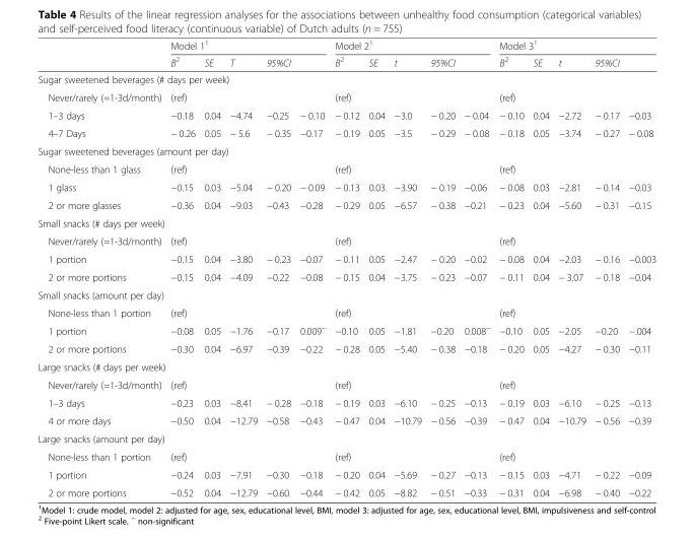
<table><thead><tr><td rowspan="2"></td><td colspan="5">Model 1<sup>1</sup></td><td colspan="5">Model 2<sup>1</sup></td><td colspan="5">Model 3<sup>1</sup></td></tr><tr><td>B<sup>2</sup></td><td>SE</td><td>T</td><td colspan="2">95%CI</td><td>B<sup>2</sup></td><td>SE</td><td>t</td><td colspan="2">95%CI</td><td>B<sup>2</sup></td><td>SE</td><td>t</td><td colspan="2">95%CI</td></tr><tr><td colspan="16">Sugar sweetened beverages (# days per week)</td></tr><tr><td rowspan="2">Never/rarely (=1-3d/month) 1–3 days</td><td rowspan="2">(ref) −0.18</td><td rowspan="2">0.04</td><td rowspan="2">−4.74</td><td colspan="2"></td><td rowspan="2">(ref) − 0.12</td><td rowspan="2">0.04</td><td rowspan="2">−3.0</td><td colspan="2"></td><td rowspan="2">(ref) − 0.10</td><td rowspan="2">0.04</td><td rowspan="2">−2.72</td><td colspan="2"></td></tr><tr><td>−0.25</td><td>− 0.10</td><td>− 0.20</td><td>− 0.04</td><td>− 0.17</td><td>−0.03</td></tr></thead><tbody><tr><td>4–7 Days</td><td>− 0.26</td><td>0.05</td><td>− 5.6</td><td>− 0.35</td><td>−0.17</td><td>− 0.19</td><td>0.05</td><td>−3.5</td><td>− 0.29</td><td>− 0.08</td><td>− 0.18</td><td>0.05</td><td>−3.74</td><td>− 0.27</td><td>− 0.08</td></tr><tr><td colspan="16">Sugar sweetened beverages (amount per day)</td></tr><tr><td>None-less than 1 glass</td><td>(ref)</td><td></td><td></td><td></td><td></td><td>(ref)</td><td></td><td></td><td></td><td></td><td>(ref)</td><td></td><td></td><td></td><td></td></tr><tr><td>1 glass</td><td>−0.15</td><td>0.03</td><td>−5.04</td><td>− 0.20</td><td>− 0.09</td><td>− 0.13</td><td>0.03</td><td>−3.90</td><td>− 0.19</td><td>−0.06</td><td>− 0.08</td><td>0.03</td><td>−2.81</td><td>− 0.14</td><td>−0.03</td></tr><tr><td>2 or more glasses</td><td>−0.36</td><td>0.04</td><td>−9.03</td><td>−0.43</td><td>−0.28</td><td>− 0.29</td><td>0.05</td><td>−6.57</td><td>− 0.38</td><td>−0.21</td><td>− 0.23</td><td>0.04</td><td>−5.60</td><td>− 0.31</td><td>−0.15</td></tr><tr><td colspan="16">Small snacks (# days per week)</td></tr><tr><td>Never/rarely (=1-3d/month)</td><td>(ref)</td><td></td><td></td><td></td><td></td><td>(ref)</td><td></td><td></td><td></td><td></td><td>(ref)</td><td></td><td></td><td></td><td></td></tr><tr><td>1 portion</td><td>−0.15</td><td>0.04</td><td>−3.80</td><td>− 0.23</td><td>−0.07</td><td>− 0.11</td><td>0.05</td><td>−2.47</td><td>− 0.20</td><td>−0.02</td><td>− 0.08</td><td>0.04</td><td>−2.03</td><td>− 0.16</td><td>−0.003</td></tr><tr><td>2 or more portions</td><td>−0.15</td><td>0.04</td><td>−4.09</td><td>−0.22</td><td>−0.08</td><td>− 0.15</td><td>0.04</td><td>−3.75</td><td>− 0.23</td><td>−0.07</td><td>− 0.11</td><td>0.04</td><td>− 3.07</td><td>− 0.18</td><td>−0.04</td></tr><tr><td colspan="16">Small snacks (amount per day)</td></tr><tr><td>None-less than 1 portion</td><td>(ref)</td><td></td><td></td><td></td><td></td><td>(ref)</td><td></td><td></td><td></td><td></td><td>(ref)</td><td></td><td></td><td></td><td></td></tr><tr><td>1 portion</td><td>−0.08</td><td>0.05</td><td>−1.76</td><td>−0.17</td><td>0.009<sup>~</sup></td><td>−0.10</td><td>0.05</td><td>−1.81</td><td>−0.20</td><td>0.008<sup>~</sup></td><td>−0.10</td><td>0.05</td><td>−2.05</td><td>−0.20</td><td>−.004</td></tr><tr><td>2 or more portions</td><td>−0.30</td><td>0.04</td><td>−6.97</td><td>−0.39</td><td>−0.22</td><td>− 0.28</td><td>0.05</td><td>−5.40</td><td>− 0.38</td><td>−0.18</td><td>− 0.20</td><td>0.05</td><td>−4.27</td><td>− 0.30</td><td>−0.11</td></tr><tr><td colspan="16">Large snacks (# days per week)</td></tr><tr><td>Never/rarely (=1-3d/month)</td><td>(ref)</td><td></td><td></td><td></td><td></td><td>(ref)</td><td></td><td></td><td></td><td></td><td>(ref)</td><td></td><td></td><td></td><td></td></tr><tr><td>1–3 days</td><td>−0.23</td><td>0.03</td><td>−8.41</td><td>− 0.28</td><td>−0.18</td><td>− 0.19</td><td>0.03</td><td>−6.10</td><td>− 0.25</td><td>−0.13</td><td>− 0.19</td><td>0.03</td><td>−6.10</td><td>− 0.25</td><td>−0.13</td></tr><tr><td>4 or more days</td><td>−0.50</td><td>0.04</td><td>−12.79</td><td>−0.58</td><td>−0.43</td><td>− 0.47</td><td>0.04</td><td>−10.79</td><td>− 0.56</td><td>−0.39</td><td>− 0.47</td><td>0.04</td><td>−10.79</td><td>− 0.56</td><td>−0.39</td></tr><tr><td colspan="16">Large snacks (amount per day)</td></tr><tr><td>None-less than 1 portion</td><td>(ref)</td><td></td><td></td><td></td><td></td><td>(ref)</td><td></td><td></td><td></td><td></td><td>(ref)</td><td></td><td></td><td></td><td></td></tr><tr><td>1 portion</td><td>−0.24</td><td>0.03</td><td>−7.91</td><td>−0.30</td><td>−0.18</td><td>− 0.20</td><td>0.04</td><td>−5.69</td><td>− 0.27</td><td>−0.13</td><td>− 0.15</td><td>0.03</td><td>−4.71</td><td>− 0.22</td><td>−0.09</td></tr><tr><td>2 or more portions</td><td>−0.52</td><td>0.04</td><td>−12.79</td><td>−0.60</td><td>−0.44</td><td>− 0.42</td><td>0.05</td><td>−8.82</td><td>− 0.51</td><td>−0.33</td><td>− 0.31</td><td>0.04</td><td>−6.98</td><td>− 0.40</td><td>−0.22</td></tr></tbody></table>